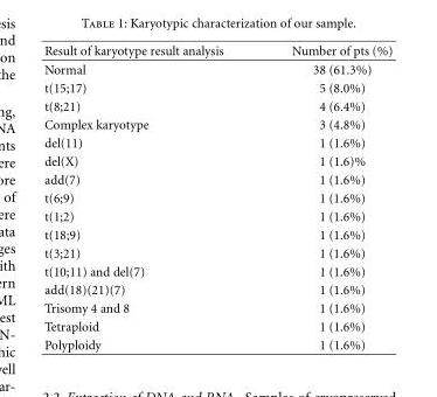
<table><thead><tr><td>Result of karyotype result analysis</td><td>Number of pts (%)</td></tr></thead><tbody><tr><td>Normal</td><td>38 (61.3%)</td></tr><tr><td>t(15;17)</td><td>5 (8.0%)</td></tr><tr><td>t(8;21)</td><td>4 (6.4%)</td></tr><tr><td>Complex karyotype</td><td>3 (4.8%)</td></tr><tr><td>del(11)</td><td>1 (1.6%)</td></tr><tr><td>del(X)</td><td>1 (1.6)%</td></tr><tr><td>add(7)</td><td>1 (1.6%)</td></tr><tr><td>t(6;9)</td><td>1 (1.6%)</td></tr><tr><td>t(1;2)</td><td>1 (1.6%)</td></tr><tr><td>t(18;9)</td><td>1 (1.6%)</td></tr><tr><td>t(3;21)</td><td>1 (1.6%)</td></tr><tr><td>t(10;11) and del(7)</td><td>1 (1.6%)</td></tr><tr><td>add(18)(21)(7)</td><td>1 (1.6%)</td></tr><tr><td>Trisomy 4 and 8</td><td>1 (1.6%)</td></tr><tr><td>Tetraploid</td><td>1 (1.6%)</td></tr><tr><td>Polyploidy</td><td>1 (1.6%)</td></tr></tbody></table>